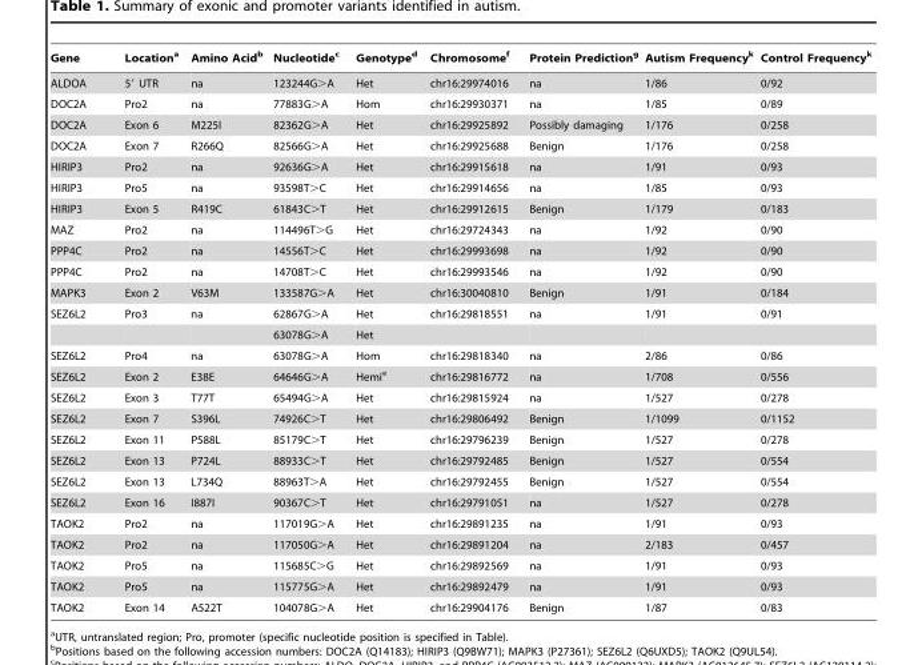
<table><thead><tr><td>Gene</td><td>Location<sup>a</sup></td><td>Amino Acid<sup>b</sup></td><td>Nucleotide<sup>c</sup></td><td>Genotype<sup>d</sup></td><td>Chromosome<sup>f</sup></td><td>Protein Prediction<sup>g</sup></td><td>Autism Frequency<sup>k</sup></td><td>Control Frequency<sup>k</sup></td></tr></thead><tbody><tr><td>ALDOA</td><td>5′ UTR</td><td>na</td><td>123244G&gt;A</td><td>Het</td><td>chr16:29974016</td><td>na</td><td>1/86</td><td>0/92</td></tr><tr><td>DOC2A</td><td>Pro2</td><td>na</td><td>77883G&gt;A</td><td>Hom</td><td>chr16:29930371</td><td>na</td><td>1/85</td><td>0/89</td></tr><tr><td>DOC2A</td><td>Exon 6</td><td>M225I</td><td>82362G&gt;A</td><td>Het</td><td>chr16:29925892</td><td>Possibly damaging</td><td>1/176</td><td>0/258</td></tr><tr><td>DOC2A</td><td>Exon 7</td><td>R266Q</td><td>82566G&gt;A</td><td>Het</td><td>chr16:29925688</td><td>Benign</td><td>1/176</td><td>0/258</td></tr><tr><td>HIRIP3</td><td>Pro2</td><td>na</td><td>92636G&gt;A</td><td>Het</td><td>chr16:29915618</td><td>na</td><td>1/91</td><td>0/93</td></tr><tr><td>HIRIP3</td><td>Pro5</td><td>na</td><td>93598T&gt;C</td><td>Het</td><td>chr16:29914656</td><td>na</td><td>1/85</td><td>0/93</td></tr><tr><td>HIRIP3</td><td>Exon 5</td><td>R419C</td><td>61843C&gt;T</td><td>Het</td><td>chr16:29912615</td><td>Benign</td><td>1/179</td><td>0/183</td></tr><tr><td>MAZ</td><td>Pro2</td><td>na</td><td>114496T&gt;G</td><td>Het</td><td>chr16:29724343</td><td>na</td><td>1/92</td><td>0/90</td></tr><tr><td>PPP4C</td><td>Pro2</td><td>na</td><td>14556T&gt;C</td><td>Het</td><td>chr16:29993698</td><td>na</td><td>1/92</td><td>0/90</td></tr><tr><td>PPP4C</td><td>Pro2</td><td>na</td><td>14708T&gt;C</td><td>Het</td><td>chr16:29993546</td><td>na</td><td>1/92</td><td>0/90</td></tr><tr><td>MAPK3</td><td>Exon 2</td><td>V63M</td><td>133587G&gt;A</td><td>Het</td><td>chr16:30040810</td><td>Benign</td><td>1/91</td><td>0/184</td></tr><tr><td rowspan="2">SEZ6L2</td><td>Pro3</td><td>na</td><td>62867G&gt;A</td><td>Het</td><td>chr16:29818551</td><td>na</td><td>1/91</td><td>0/91</td></tr><tr><td></td><td></td><td>63078G&gt;A</td><td>Het</td><td></td><td></td><td></td><td></td></tr><tr><td>SEZ6L2</td><td>Pro4</td><td>na</td><td>63078G&gt;A</td><td>Hom</td><td>chr16:29818340</td><td>na</td><td>2/86</td><td>0/86</td></tr><tr><td>SEZ6L2</td><td>Exon 2</td><td>E38E</td><td>64646G&gt;A</td><td>Hemi<sup>e</sup></td><td>chr16:29816772</td><td>na</td><td>1/708</td><td>0/556</td></tr><tr><td>SEZ6L2</td><td>Exon 3</td><td>T77T</td><td>65494G&gt;A</td><td>Het</td><td>chr16:29815924</td><td>na</td><td>1/527</td><td>0/278</td></tr><tr><td>SEZ6L2</td><td>Exon 7</td><td>S396L</td><td>74926C&gt;T</td><td>Het</td><td>chr16:29806492</td><td>Benign</td><td>1/1099</td><td>0/1152</td></tr><tr><td>SEZ6L2</td><td>Exon 11</td><td>P588L</td><td>85179C&gt;T</td><td>Het</td><td>chr16:29796239</td><td>Benign</td><td>1/527</td><td>0/278</td></tr><tr><td>SEZ6L2</td><td>Exon 13</td><td>P724L</td><td>88933C&gt;T</td><td>Het</td><td>chr16:29792485</td><td>Benign</td><td>1/527</td><td>0/554</td></tr><tr><td>SEZ6L2</td><td>Exon 13</td><td>L734Q</td><td>88963T&gt;A</td><td>Het</td><td>chr16:29792455</td><td>Benign</td><td>1/527</td><td>0/554</td></tr><tr><td>SEZ6L2</td><td>Exon 16</td><td>I887I</td><td>90367C&gt;T</td><td>Het</td><td>chr16:29791051</td><td>na</td><td>1/527</td><td>0/278</td></tr><tr><td>TAOK2</td><td>Pro2</td><td>na</td><td>117019G&gt;A</td><td>Het</td><td>chr16:29891235</td><td>na</td><td>1/91</td><td>0/93</td></tr><tr><td>TAOK2</td><td>Pro2</td><td>na</td><td>117050G&gt;A</td><td>Het</td><td>chr16:29891204</td><td>na</td><td>2/183</td><td>0/457</td></tr><tr><td>TAOK2</td><td>Pro5</td><td>na</td><td>115685C&gt;G</td><td>Het</td><td>chr16:29892569</td><td>na</td><td>1/91</td><td>0/93</td></tr><tr><td>TAOK2</td><td>Pro5</td><td>na</td><td>115775G&gt;A</td><td>Het</td><td>chr16:29892479</td><td>na</td><td>1/91</td><td>0/93</td></tr><tr><td>TAOK2</td><td>Exon 14</td><td>A522T</td><td>104078G&gt;A</td><td>Het</td><td>chr16:29904176</td><td>Benign</td><td>1/87</td><td>0/83</td></tr></tbody></table>